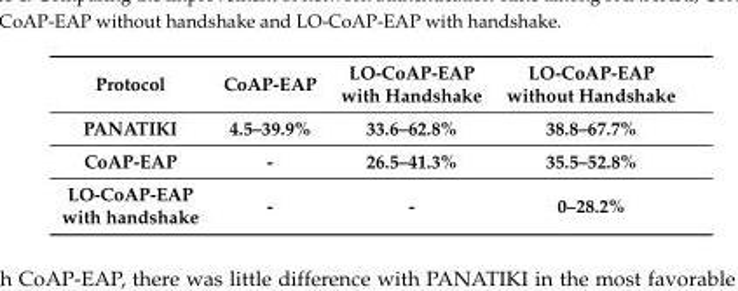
<table><thead><tr><td>Protocol</td><td>CoAP-EAP</td><td>LO-CoAP-EAP with Handshake</td><td>LO-CoAP-EAP without Handshake</td></tr></thead><tbody><tr><td>PANATIKI</td><td>4.5–39.9%</td><td>33.6–62.8%</td><td>38.8–67.7%</td></tr><tr><td>CoAP-EAP</td><td>-</td><td>26.5–41.3%</td><td>35.5–52.8%</td></tr><tr><td>LO-CoAP-EAP with handshake</td><td>-</td><td>-</td><td>0–28.2%</td></tr></tbody></table>